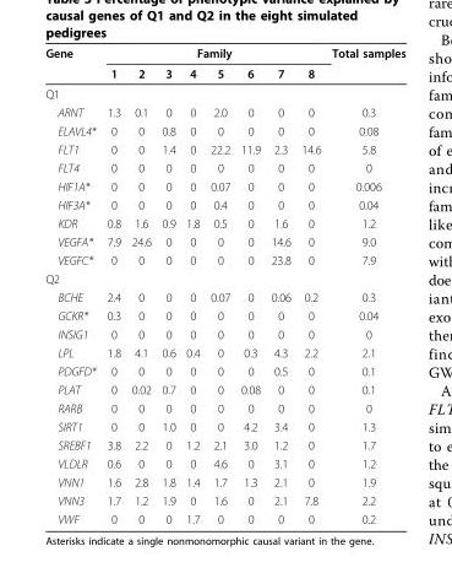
<table><thead><tr><td rowspan="2">Gene</td><td colspan="8">Family</td><td rowspan="2">Total samples</td></tr><tr><td>1</td><td>2</td><td>3</td><td>4</td><td>5</td><td>6</td><td>7</td><td>8</td></tr></thead><tbody><tr><td colspan="10">Q1</td></tr><tr><td>ARNT</td><td>1.3</td><td>0.1</td><td>0</td><td>0</td><td>2.0</td><td>0</td><td>0</td><td>0</td><td>0.3</td></tr><tr><td>ELAVL4*</td><td>0</td><td>0</td><td>0.8</td><td>0</td><td>0</td><td>0</td><td>0</td><td>0</td><td>0.08</td></tr><tr><td>FLT1</td><td>0</td><td>0</td><td>1.4</td><td>0</td><td>22.2</td><td>11.9</td><td>2.3</td><td>14.6</td><td>5.8</td></tr><tr><td>FLT4</td><td>0</td><td>0</td><td>0</td><td>0</td><td>0</td><td>0</td><td>0</td><td>0</td><td>0</td></tr><tr><td>HIF1A*</td><td>0</td><td>0</td><td>0</td><td>0</td><td>0.07</td><td>0</td><td>0</td><td>0</td><td>0.006</td></tr><tr><td>HIF3A*</td><td>0</td><td>0</td><td>0</td><td>0</td><td>0.4</td><td>0</td><td>0</td><td>0</td><td>0.04</td></tr><tr><td>KDR</td><td>0.8</td><td>1.6</td><td>0.9</td><td>1.8</td><td>0.5</td><td>0</td><td>1.6</td><td>0</td><td>1.2</td></tr><tr><td>VEGFA*</td><td>7.9</td><td>24.6</td><td>0</td><td>0</td><td>0</td><td>0</td><td>14.6</td><td>0</td><td>9.0</td></tr><tr><td>VEGFC*</td><td>0</td><td>0</td><td>0</td><td>0</td><td>0</td><td>0</td><td>23.8</td><td>0</td><td>7.9</td></tr><tr><td colspan="10">Q2</td></tr><tr><td>BCHE</td><td>2.4</td><td>0</td><td>0</td><td>0</td><td>0.07</td><td>0</td><td>0.06</td><td>0.2</td><td>0.3</td></tr><tr><td>GCKR*</td><td>0.3</td><td>0</td><td>0</td><td>0</td><td>0</td><td>0</td><td>0</td><td>0</td><td>0.04</td></tr><tr><td>INSIG1</td><td>0</td><td>0</td><td>0</td><td>0</td><td>0</td><td>0</td><td>0</td><td>0</td><td>0</td></tr><tr><td>LPL</td><td>1.8</td><td>4.1</td><td>0.6</td><td>0.4</td><td>0</td><td>0.3</td><td>4.3</td><td>2.2</td><td>2.1</td></tr><tr><td>PDGFD*</td><td>0</td><td>0</td><td>0</td><td>0</td><td>0</td><td>0</td><td>0.5</td><td>0</td><td>0.1</td></tr><tr><td>PLAT</td><td>0</td><td>0.02</td><td>0.7</td><td>0</td><td>0</td><td>0.08</td><td>0</td><td>0</td><td>0.1</td></tr><tr><td>RARB</td><td>0</td><td>0</td><td>0</td><td>0</td><td>0</td><td>0</td><td>0</td><td>0</td><td>0</td></tr><tr><td>SIRT1</td><td>0</td><td>0</td><td>1.0</td><td>0</td><td>0</td><td>4.2</td><td>3.4</td><td>0</td><td>1.3</td></tr><tr><td>SREBF1</td><td>3.8</td><td>2.2</td><td>0</td><td>1.2</td><td>2.1</td><td>3.0</td><td>1.2</td><td>0</td><td>1.7</td></tr><tr><td>VLDLR</td><td>0.6</td><td>0</td><td>0</td><td>0</td><td>4.6</td><td>0</td><td>3.1</td><td>0</td><td>1.2</td></tr><tr><td>VNN1</td><td>1.6</td><td>2.8</td><td>1.8</td><td>1.4</td><td>1.7</td><td>1.3</td><td>2.1</td><td>0</td><td>1.9</td></tr><tr><td>VNN3</td><td>1.7</td><td>1.2</td><td>1.9</td><td>0</td><td>1.6</td><td>0</td><td>2.1</td><td>7.8</td><td>2.2</td></tr><tr><td>VWF</td><td>0</td><td>0</td><td>0</td><td>1.7</td><td>0</td><td>0</td><td>0</td><td>0</td><td>0.2</td></tr></tbody></table>